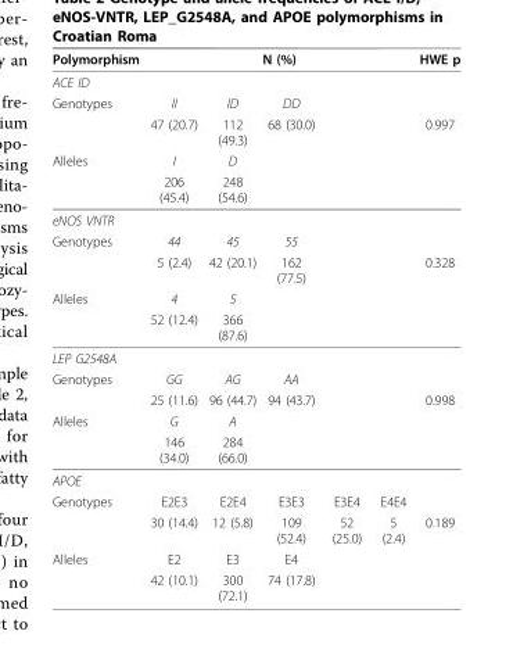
<table><thead><tr><td>Polymorphism</td><td colspan="5">N (%)</td><td>HWE p</td></tr><tr><td colspan="7">ACE ID</td></tr><tr><td>Genotypes</td><td>II</td><td>ID</td><td>DD</td><td></td><td></td><td></td></tr></thead><tbody><tr><td></td><td>47 (20.7)</td><td>112 (49.3)</td><td>68 (30.0)</td><td></td><td></td><td>0.997</td></tr><tr><td rowspan="2">Alleles</td><td>I</td><td>D</td><td></td><td></td><td></td><td></td></tr><tr><td>206 (45.4)</td><td>248 (54.6)</td><td></td><td></td><td></td><td></td></tr><tr><td colspan="7">eNOS VNTR</td></tr><tr><td rowspan="2">Genotypes</td><td>44</td><td>45</td><td>55</td><td></td><td></td><td></td></tr><tr><td>5 (2.4)</td><td>42 (20.1)</td><td>162 (77.5)</td><td></td><td></td><td>0.328</td></tr><tr><td rowspan="2">Alleles</td><td>4</td><td>5</td><td></td><td></td><td></td><td></td></tr><tr><td>52 (12.4)</td><td>366 (87.6)</td><td></td><td></td><td></td><td></td></tr><tr><td colspan="7">LEP G2548A</td></tr><tr><td rowspan="2">Genotypes</td><td>GG</td><td>AG</td><td>AA</td><td></td><td></td><td></td></tr><tr><td>25 (11.6)</td><td>96 (44.7)</td><td>94 (43.7)</td><td></td><td></td><td>0.998</td></tr><tr><td rowspan="2">Alleles</td><td>G</td><td>A</td><td></td><td></td><td></td><td></td></tr><tr><td>146 (34.0)</td><td>284 (66.0)</td><td></td><td></td><td></td><td></td></tr><tr><td colspan="7">APOE</td></tr><tr><td rowspan="2">Genotypes</td><td>E2E3</td><td>E2E4</td><td>E3E3</td><td>E3E4</td><td>E4E4</td><td></td></tr><tr><td>30 (14.4)</td><td>12 (5.8)</td><td>109 (52.4)</td><td>52 (25.0)</td><td>5 (2.4)</td><td>0.189</td></tr><tr><td rowspan="2">Alleles</td><td>E2</td><td>E3</td><td>E4</td><td></td><td></td><td></td></tr><tr><td>42 (10.1)</td><td>300 (72.1)</td><td>74 (17.8)</td><td></td><td></td><td></td></tr></tbody></table>